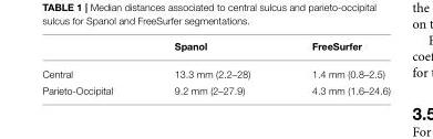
<table><thead><tr><td></td><td>Spanol</td><td>FreeSurfer</td></tr></thead><tbody><tr><td>Central</td><td>13.3 mm (2.2–28)</td><td>1.4 mm (0.8–2.5)</td></tr><tr><td>Parieto-Occipital</td><td>9.2 mm (2–27.9)</td><td>4.3 mm (1.6–24.6)</td></tr></tbody></table>